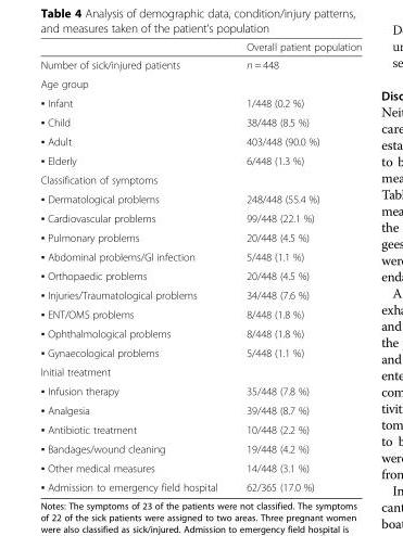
<table><thead><tr><td></td><td>Overall patient population</td></tr></thead><tbody><tr><td>Number of sick/injured patients</td><td>n = 448</td></tr><tr><td colspan="2">Age group</td></tr><tr><td>▪ Infant</td><td>1/448 (0.2 %)</td></tr><tr><td>▪ Child</td><td>38/448 (8.5 %)</td></tr><tr><td>▪ Adult</td><td>403/448 (90.0 %)</td></tr><tr><td>▪ Elderly</td><td>6/448 (1.3 %)</td></tr><tr><td colspan="2">Classification of symptoms</td></tr><tr><td>▪ Dermatological problems</td><td>248/448 (55.4 %)</td></tr><tr><td>▪ Cardiovascular problems</td><td>99/448 (22.1 %)</td></tr><tr><td>▪ Pulmonary problems</td><td>20/448 (4.5 %)</td></tr><tr><td>▪ Abdominal problems/GI infection</td><td>5/448 (1.1 %)</td></tr><tr><td>▪ Orthopaedic problems</td><td>20/448 (4.5 %)</td></tr><tr><td>▪ Injuries/Traumatological problems</td><td>34/448 (7.6 %)</td></tr><tr><td>▪ ENT/OMS problems</td><td>8/448 (1.8 %)</td></tr><tr><td>▪ Ophthalmological problems</td><td>8/448 (1.8 %)</td></tr><tr><td>▪ Gynaecological problems</td><td>5/448 (1.1 %)</td></tr><tr><td colspan="2">Initial treatment</td></tr><tr><td>▪ Infusion therapy</td><td>35/448 (7.8 %)</td></tr><tr><td>▪ Analgesia</td><td>39/448 (8.7 %)</td></tr><tr><td>▪ Antibiotic treatment</td><td>10/448 (2.2 %)</td></tr><tr><td>▪ Bandages/wound cleaning</td><td>19/448 (4.2 %)</td></tr><tr><td>▪ Other medical measures</td><td>14/448 (3.1 %)</td></tr><tr><td>▪ Admission to emergency field hospital</td><td>62/365 (17.0 %)</td></tr></tbody></table>